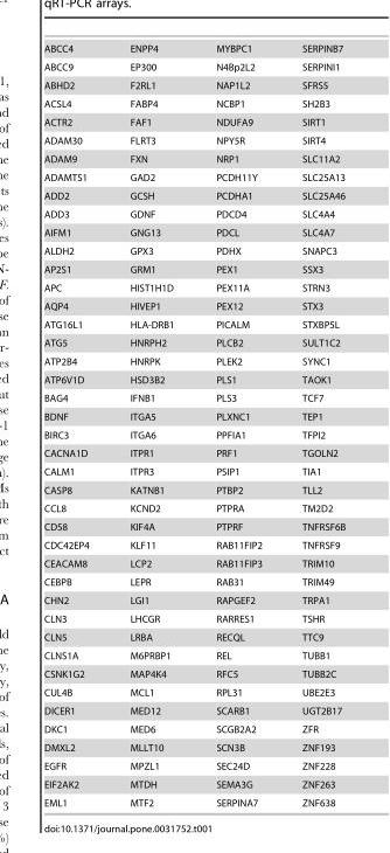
<table><tbody><tr><td>ABCC4</td><td>ENPP4</td><td>MYBPC1</td><td>SERPINB7</td></tr><tr><td>ABCC9</td><td>EP300</td><td>N4Bp2L2</td><td>SERPINI1</td></tr><tr><td>ABHD2</td><td>F2RL1</td><td>NAP1L2</td><td>SFRS5</td></tr><tr><td>ACSL4</td><td>FABP4</td><td>NCBP1</td><td>SH2B3</td></tr><tr><td>ACTR2</td><td>FAF1</td><td>NDUFA9</td><td>SIRT1</td></tr><tr><td>ADAM30</td><td>FLRT3</td><td>NPY5R</td><td>SIRT4</td></tr><tr><td>ADAM9</td><td>FXN</td><td>NRP1</td><td>SLC11A2</td></tr><tr><td>ADAMTS1</td><td>GAD2</td><td>PCDH11Y</td><td>SLC25A13</td></tr><tr><td>ADD2</td><td>GCSH</td><td>PCDHA1</td><td>SLC25A46</td></tr><tr><td>ADD3</td><td>GDNF</td><td>PDCD4</td><td>SLC4A4</td></tr><tr><td>AIFM1</td><td>GNG13</td><td>PDCL</td><td>SLC4A7</td></tr><tr><td>ALDH2</td><td>GPX3</td><td>PDHX</td><td>SNAPC3</td></tr><tr><td>AP2S1</td><td>GRM1</td><td>PEX1</td><td>SSX3</td></tr><tr><td>APC</td><td>HIST1H1D</td><td>PEX11A</td><td>STRN3</td></tr><tr><td>AQP4</td><td>HIVEP1</td><td>PEX12</td><td>STX3</td></tr><tr><td>ATG16L1</td><td>HLA-DRB1</td><td>PICALM</td><td>STXBP5L</td></tr><tr><td>ATG5</td><td>HNRPH2</td><td>PLCB2</td><td>SULT1C2</td></tr><tr><td>ATP2B4</td><td>HNRPK</td><td>PLEK2</td><td>SYNC1</td></tr><tr><td>ATP6V1D</td><td>HSD3B2</td><td>PLS1</td><td>TAOK1</td></tr><tr><td>BAG4</td><td>IFNB1</td><td>PLS3</td><td>TCF7</td></tr><tr><td>BDNF</td><td>ITGA5</td><td>PLXNC1</td><td>TEP1</td></tr><tr><td>BIRC3</td><td>ITGA6</td><td>PPFIA1</td><td>TFPI2</td></tr><tr><td>CACNA1D</td><td>ITPR1</td><td>PRF1</td><td>TGOLN2</td></tr><tr><td>CALM1</td><td>ITPR3</td><td>PSIP1</td><td>TIA1</td></tr><tr><td>CASP8</td><td>KATNB1</td><td>PTBP2</td><td>TLL2</td></tr><tr><td>CCL8</td><td>KCND2</td><td>PTPRA</td><td>TM2D2</td></tr><tr><td>CD58</td><td>KIF4A</td><td>PTPRF</td><td>TNFRSF6B</td></tr><tr><td>CDC42EP4</td><td>KLF11</td><td>RAB11FIP2</td><td>TNFRSF9</td></tr><tr><td>CEACAM8</td><td>LCP2</td><td>RAB11FIP3</td><td>TRIM10</td></tr><tr><td>CEBPB</td><td>LEPR</td><td>RAB31</td><td>TRIM49</td></tr><tr><td>CHN2</td><td>LGI1</td><td>RAPGEF2</td><td>TRPA1</td></tr><tr><td>CLN3</td><td>LHCGR</td><td>RARRES1</td><td>TSHR</td></tr><tr><td>CLN5</td><td>LRBA</td><td>RECQL</td><td>TTC9</td></tr><tr><td>CLNS1A</td><td>M6PRBP1</td><td>REL</td><td>TUBB1</td></tr><tr><td>CSNK1G2</td><td>MAP4K4</td><td>RFC5</td><td>TUBB2C</td></tr><tr><td>CUL4B</td><td>MCL1</td><td>RPL31</td><td>UBE2E3</td></tr><tr><td>DICER1</td><td>MED12</td><td>SCARB1</td><td>UGT2B17</td></tr><tr><td>DKC1</td><td>MED6</td><td>SCGB2A2</td><td>ZFR</td></tr><tr><td>DMXL2</td><td>MLLT10</td><td>SCN3B</td><td>ZNF193</td></tr><tr><td>EGFR</td><td>MPZL1</td><td>SEC24D</td><td>ZNF228</td></tr><tr><td>EIF2AK2</td><td>MTDH</td><td>SEMA3G</td><td>ZNF263</td></tr><tr><td>EML1</td><td>MTF2</td><td>SERPINA7</td><td>ZNF638</td></tr></tbody></table>